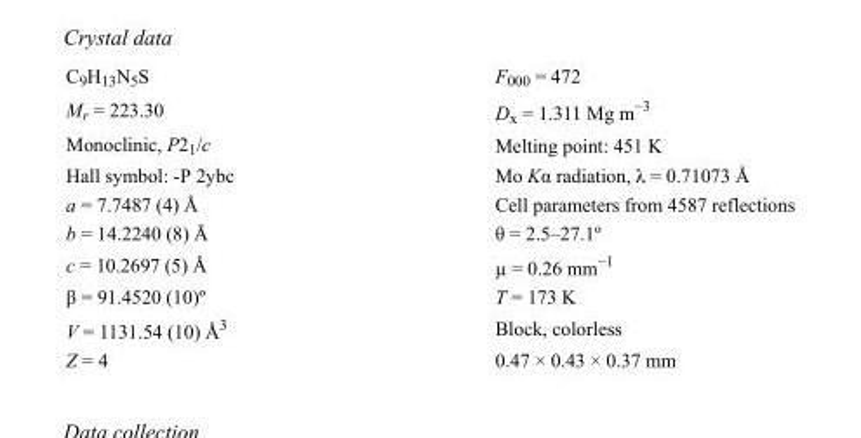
<table><tbody><tr><td>C<sub>9</sub>H<sub>13</sub>N<sub>5</sub>S</td><td>F000 = 472</td></tr><tr><td>M<sub>r</sub> = 223.30</td><td>D<sub>x</sub> = 1.311 Mg m<sup>−3</sup></td></tr><tr><td>Monoclinic, P2<sub>1</sub>/c</td><td>Melting point: 451 K</td></tr><tr><td>Hall symbol: -P 2ybc</td><td>Mo Kα radiation, λ = 0.71073 Å</td></tr><tr><td>a = 7.7487 (4) Å</td><td>Cell parameters from 4587 reflections</td></tr><tr><td>b = 14.2240 (8) Å</td><td>θ = 2.5–27.1º</td></tr><tr><td>c = 10.2697 (5) Å</td><td>µ = 0.26 mm<sup>−1</sup></td></tr><tr><td>β = 91.4520 (10)º</td><td>T = 173 K</td></tr><tr><td>V = 1131.54 (10) Å<sup>3</sup></td><td>Block, colorless</td></tr><tr><td>Z = 4</td><td>0.47 × 0.43 × 0.37 mm</td></tr></tbody></table>